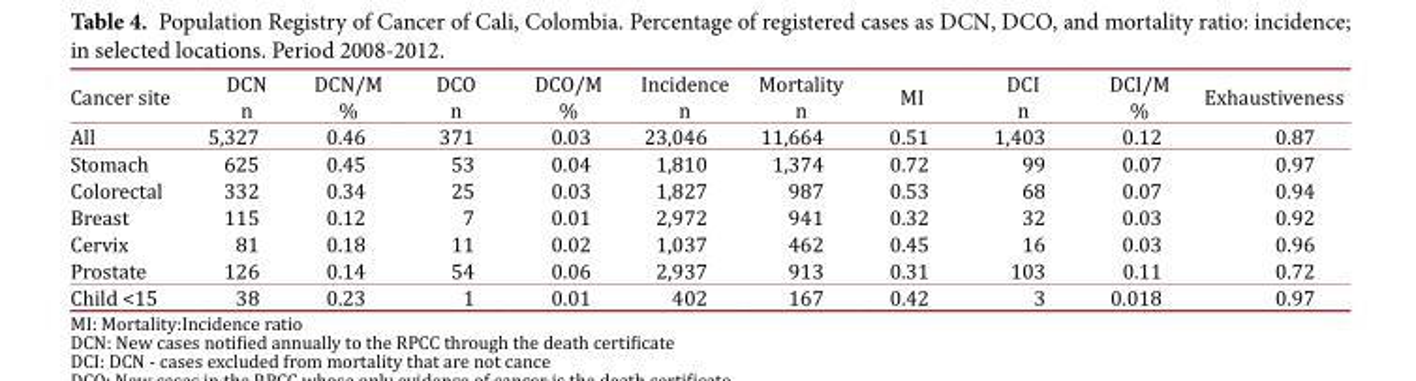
<table><thead><tr><td rowspan="2">Cancer site</td><td rowspan="2">DCN n</td><td rowspan="2">DCN/M %</td><td rowspan="2">DCO n</td><td rowspan="2">DCO/M %</td><td rowspan="2">Incidence n</td><td rowspan="2">Mortality n</td><td rowspan="2">MI</td><td rowspan="2">DCI n</td><td rowspan="2">DCI/M %</td><td rowspan="2">Exhaustiveness</td></tr><tr></tr></thead><tbody><tr><td>All</td><td>5,327</td><td>0.46</td><td>371</td><td>0.03</td><td>23,046</td><td>11,664</td><td>0.51</td><td>1,403</td><td>0.12</td><td>0.87</td></tr><tr><td>Stomach</td><td>625</td><td>0.45</td><td>53</td><td>0.04</td><td>1,810</td><td>1,374</td><td>0.72</td><td>99</td><td>0.07</td><td>0.97</td></tr><tr><td>Colorectal</td><td>332</td><td>0.34</td><td>25</td><td>0.03</td><td>1,827</td><td>987</td><td>0.53</td><td>68</td><td>0.07</td><td>0.94</td></tr><tr><td>Breast</td><td>115</td><td>0.12</td><td>7</td><td>0.01</td><td>2,972</td><td>941</td><td>0.32</td><td>32</td><td>0.03</td><td>0.92</td></tr><tr><td>Cervix</td><td>81</td><td>0.18</td><td>11</td><td>0.02</td><td>1,037</td><td>462</td><td>0.45</td><td>16</td><td>0.03</td><td>0.96</td></tr><tr><td>Prostate</td><td>126</td><td>0.14</td><td>54</td><td>0.06</td><td>2,937</td><td>913</td><td>0.31</td><td>103</td><td>0.11</td><td>0.72</td></tr><tr><td>Child &lt;15</td><td>38</td><td>0.23</td><td>1</td><td>0.01</td><td>402</td><td>167</td><td>0.42</td><td>3</td><td>0.018</td><td>0.97</td></tr></tbody></table>